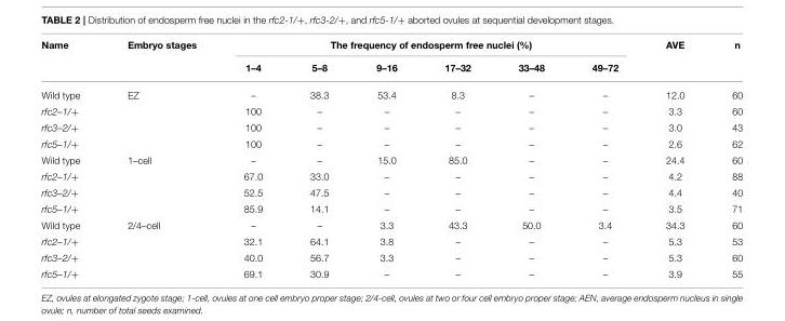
<table><thead><tr><td rowspan="2">Name</td><td rowspan="2">Embryo stages</td><td colspan="6">The frequency of endosperm free nuclei (%)</td><td rowspan="2">AVE</td><td rowspan="2">n</td></tr><tr><td>1–4</td><td>5–8</td><td>9–16</td><td>17–32</td><td>33–48</td><td>49–72</td></tr></thead><tbody><tr><td>Wild type</td><td>EZ</td><td>–</td><td>38.3</td><td>53.4</td><td>8.3</td><td>–</td><td>–</td><td>12.0</td><td>60</td></tr><tr><td>rfc2–1/+</td><td></td><td>100</td><td>–</td><td>–</td><td>–</td><td>–</td><td>–</td><td>3.3</td><td>60</td></tr><tr><td>rfc3–2/+</td><td></td><td>100</td><td>–</td><td>–</td><td>–</td><td>–</td><td>–</td><td>3.0</td><td>43</td></tr><tr><td>rfc5–1/+</td><td></td><td>100</td><td>–</td><td>–</td><td>–</td><td>–</td><td>–</td><td>2.6</td><td>62</td></tr><tr><td>Wild type</td><td>1–cell</td><td>–</td><td>–</td><td>15.0</td><td>85.0</td><td>–</td><td>–</td><td>24.4</td><td>60</td></tr><tr><td>rfc2–1/+</td><td></td><td>67.0</td><td>33.0</td><td>–</td><td>–</td><td>–</td><td>–</td><td>4.2</td><td>88</td></tr><tr><td>rfc3–2/+</td><td></td><td>52.5</td><td>47.5</td><td>–</td><td>–</td><td>–</td><td>–</td><td>4.4</td><td>40</td></tr><tr><td>rfc5–1/+</td><td></td><td>85.9</td><td>14.1</td><td>–</td><td>–</td><td>–</td><td>–</td><td>3.5</td><td>71</td></tr><tr><td>Wild type</td><td>2/4–cell</td><td>–</td><td>–</td><td>3.3</td><td>43.3</td><td>50.0</td><td>3.4</td><td>34.3</td><td>60</td></tr><tr><td>rfc2–1/+</td><td></td><td>32.1</td><td>64.1</td><td>3.8</td><td>–</td><td>–</td><td>–</td><td>5.3</td><td>53</td></tr><tr><td>rfc3–2/+</td><td></td><td>40.0</td><td>56.7</td><td>3.3</td><td>–</td><td>–</td><td>–</td><td>5.3</td><td>60</td></tr><tr><td>rfc5–1/+</td><td></td><td>69.1</td><td>30.9</td><td>–</td><td>–</td><td>–</td><td>–</td><td>3.9</td><td>55</td></tr></tbody></table>